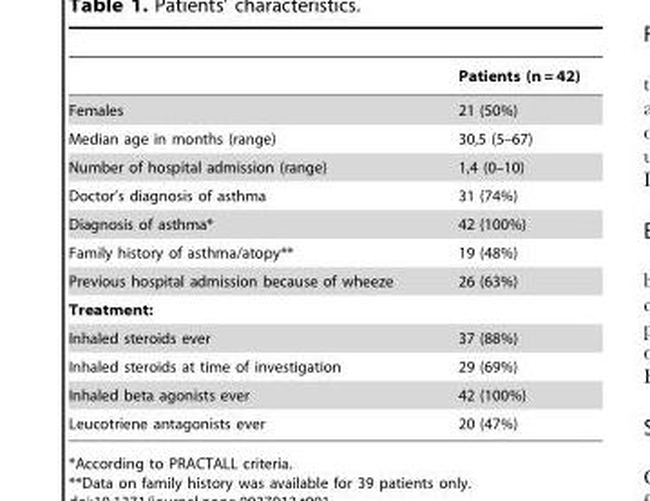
<table><thead><tr><td></td><td>Patients (n = 42)</td></tr></thead><tbody><tr><td>Females</td><td>21 (50%)</td></tr><tr><td>Median age in months (range)</td><td>30,5 (5–67)</td></tr><tr><td>Number of hospital admission (range)</td><td>1,4 (0–10)</td></tr><tr><td>Doctor’s diagnosis of asthma</td><td>31 (74%)</td></tr><tr><td>Diagnosis of asthma*</td><td>42 (100%)</td></tr><tr><td>Family history of asthma/atopy**</td><td>19 (48%)</td></tr><tr><td>Previous hospital admission because of wheeze</td><td>26 (63%)</td></tr><tr><td colspan="2">Treatment:</td></tr><tr><td>Inhaled steroids ever</td><td>37 (88%)</td></tr><tr><td>Inhaled steroids at time of investigation</td><td>29 (69%)</td></tr><tr><td>Inhaled beta agonists ever</td><td>42 (100%)</td></tr><tr><td>Leucotriene antagonists ever</td><td>20 (47%)</td></tr></tbody></table>